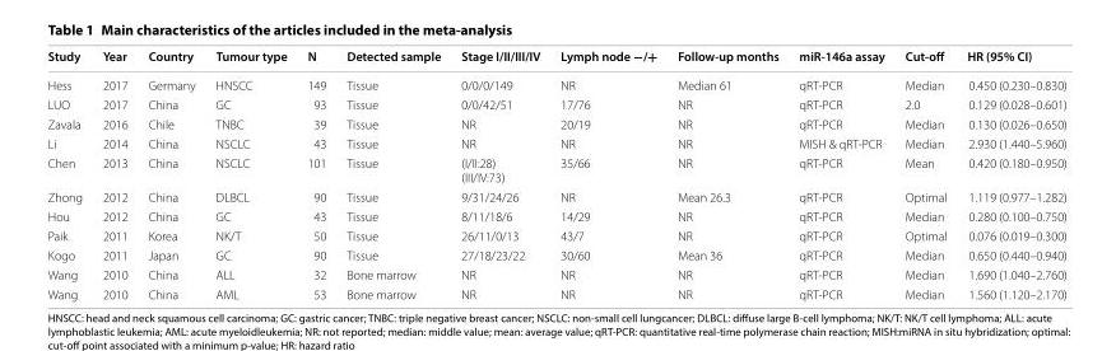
<table><thead><tr><td>Study</td><td>Year</td><td>Country</td><td>Tumour type</td><td>N</td><td>Detected sample</td><td>Stage I/II/III/IV</td><td>Lymph node −/+</td><td>Follow‑up months</td><td>miR‑146a assay</td><td>Cut‑off</td><td>HR (95% CI)</td></tr></thead><tbody><tr><td>Hess</td><td>2017</td><td>Germany</td><td>HNSCC</td><td>149</td><td>Tissue</td><td>0/0/0/149</td><td>NR</td><td>Median 61</td><td>qRT‑PCR</td><td>Median</td><td>0.450 (0.230–0.830)</td></tr><tr><td>LUO</td><td>2017</td><td>China</td><td>GC</td><td>93</td><td>Tissue</td><td>0/0/42/51</td><td>17/76</td><td>NR</td><td>qRT‑PCR</td><td>2.0</td><td>0.129 (0.028–0.601)</td></tr><tr><td>Zavala</td><td>2016</td><td>Chile</td><td>TNBC</td><td>39</td><td>Tissue</td><td>NR</td><td>20/19</td><td>NR</td><td>qRT‑PCR</td><td>Median</td><td>0.130 (0.026–0.650)</td></tr><tr><td>Li</td><td>2014</td><td>China</td><td>NSCLC</td><td>43</td><td>Tissue</td><td>NR</td><td>NR</td><td>NR</td><td>MISH &amp; qRT‑PCR</td><td>Median</td><td>2.930 (1.440–5.960)</td></tr><tr><td>Chen</td><td>2013</td><td>China</td><td>NSCLC</td><td>101</td><td>Tissue</td><td>(I/II:28) (III/IV:73)</td><td>35/66</td><td>NR</td><td>qRT‑PCR</td><td>Mean</td><td>0.420 (0.180–0.950)</td></tr><tr><td>Zhong</td><td>2012</td><td>China</td><td>DLBCL</td><td>90</td><td>Tissue</td><td>9/31/24/26</td><td>NR</td><td>Mean 26.3</td><td>qRT‑PCR</td><td>Optimal</td><td>1.119 (0.977–1.282)</td></tr><tr><td>Hou</td><td>2012</td><td>China</td><td>GC</td><td>43</td><td>Tissue</td><td>8/11/18/6</td><td>14/29</td><td>NR</td><td>qRT‑PCR</td><td>Median</td><td>0.280 (0.100–0.750)</td></tr><tr><td>Paik</td><td>2011</td><td>Korea</td><td>NK/T</td><td>50</td><td>Tissue</td><td>26/11/0/13</td><td>43/7</td><td>NR</td><td>qRT‑PCR</td><td>Optimal</td><td>0.076 (0.019–0.300)</td></tr><tr><td>Kogo</td><td>2011</td><td>Japan</td><td>GC</td><td>90</td><td>Tissue</td><td>27/18/23/22</td><td>30/60</td><td>Mean 36</td><td>qRT‑PCR</td><td>Median</td><td>0.650 (0.440–0.940)</td></tr><tr><td>Wang</td><td>2010</td><td>China</td><td>ALL</td><td>32</td><td>Bone marrow</td><td>NR</td><td>NR</td><td>NR</td><td>qRT‑PCR</td><td>Median</td><td>1.690 (1.040–2.760)</td></tr><tr><td>Wang</td><td>2010</td><td>China</td><td>AML</td><td>53</td><td>Bone marrow</td><td>NR</td><td>NR</td><td>NR</td><td>qRT‑PCR</td><td>Median</td><td>1.560 (1.120–2.170)</td></tr></tbody></table>